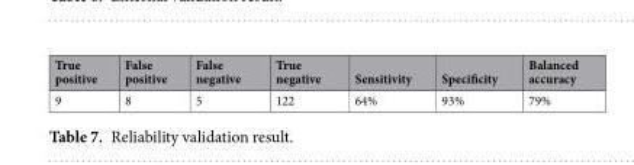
<table><thead><tr><td>True positive</td><td>False positive</td><td>False negative</td><td>True negative</td><td>Sensitivity</td><td>Specificity</td><td>Balanced accuracy</td></tr></thead><tbody><tr><td>9</td><td>8</td><td>5</td><td>122</td><td>64%</td><td>93%</td><td>79%</td></tr></tbody></table>